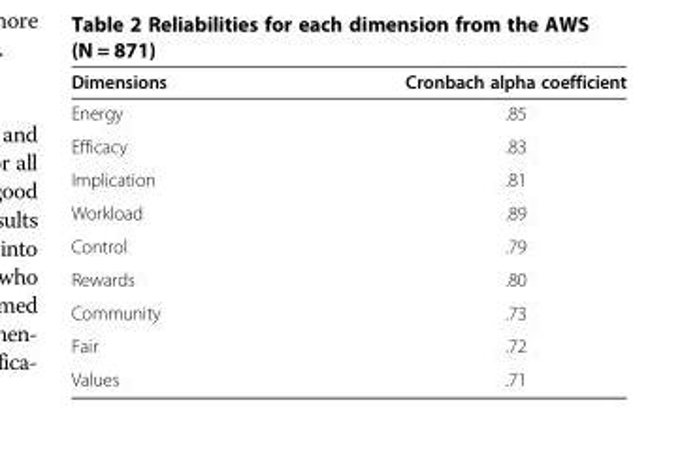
<table><thead><tr><td>Dimensions</td><td>Cronbach alpha coefficient</td></tr></thead><tbody><tr><td>Energy</td><td>.85</td></tr><tr><td>Efficacy</td><td>.83</td></tr><tr><td>Implication</td><td>.81</td></tr><tr><td>Workload</td><td>.89</td></tr><tr><td>Control</td><td>.79</td></tr><tr><td>Rewards</td><td>.80</td></tr><tr><td>Community</td><td>.73</td></tr><tr><td>Fair</td><td>.72</td></tr><tr><td>Values</td><td>.71</td></tr></tbody></table>